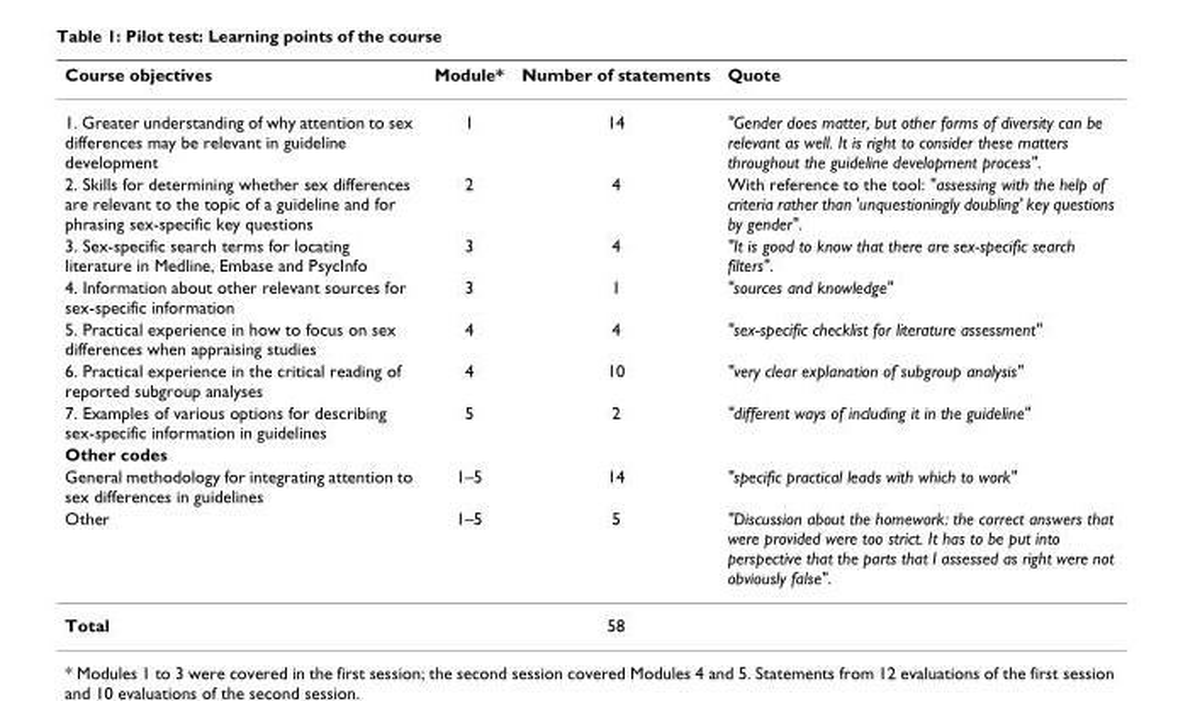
<table><thead><tr><td>Course objectives</td><td>Module*</td><td>Number of statements</td><td>Quote</td></tr></thead><tbody><tr><td>1. Greater understanding of why attention to sex differences may be relevant in guideline development</td><td>1</td><td>14</td><td>&quot;Gender does matter, but other forms of diversity can be relevant as well. It is right to consider these matters throughout the guideline development process&quot;.</td></tr><tr><td>2. Skills for determining whether sex differences are relevant to the topic of a guideline and for phrasing sex-specific key questions</td><td>2</td><td>4</td><td>With reference to the tool: &quot;assessing with the help of criteria rather than &#x27;unquestioningly doubling&#x27; key questions by gender&quot;.</td></tr><tr><td>3. Sex-specific search terms for locating literature in Medline, Embase and PsycInfo</td><td>3</td><td>4</td><td>&quot;It is good to know that there are sex-specific search filters&quot;.</td></tr><tr><td>4. Information about other relevant sources for sex-specific information</td><td>3</td><td>1</td><td>&quot;sources and knowledge&quot;</td></tr><tr><td>5. Practical experience in how to focus on sex differences when appraising studies</td><td>4</td><td>4</td><td>&quot;sex-specific checklist for literature assessment&quot;</td></tr><tr><td>6. Practical experience in the critical reading of reported subgroup analyses</td><td>4</td><td>10</td><td>&quot;very clear explanation of subgroup analysis&quot;</td></tr><tr><td>7. Examples of various options for describing sex-specific information in guidelines</td><td>5</td><td>2</td><td>&quot;different ways of including it in the guideline&quot;</td></tr><tr><td colspan="4">Other codes</td></tr><tr><td>General methodology for integrating attention to sex differences in guidelines</td><td>1–5</td><td>14</td><td>&quot;specific practical leads with which to work&quot;</td></tr><tr><td>Other</td><td>1–5</td><td>5</td><td>&quot;Discussion about the homework: the correct answers that were provided were too strict. It has to be put into perspective that the parts that I assessed as right were not obviously false&quot;.</td></tr><tr><td>Total</td><td></td><td>58</td><td></td></tr></tbody></table>